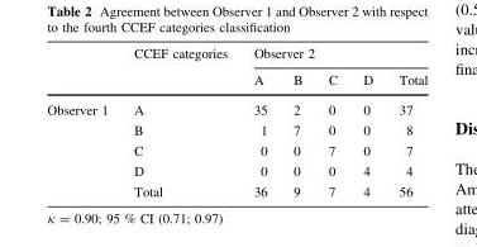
<table><thead><tr><td rowspan="2"></td><td rowspan="2">CCEF categories</td><td colspan="5">Observer 2</td></tr><tr><td>A</td><td>B</td><td>C</td><td>D</td><td>Total</td></tr></thead><tbody><tr><td rowspan="5">Observer 1</td><td>A</td><td>35</td><td>2</td><td>0</td><td>0</td><td>37</td></tr><tr><td>B</td><td>1</td><td>7</td><td>0</td><td>0</td><td>8</td></tr><tr><td>C</td><td>0</td><td>0</td><td>7</td><td>0</td><td>7</td></tr><tr><td>D</td><td>0</td><td>0</td><td>0</td><td>4</td><td>4</td></tr><tr><td>Total</td><td>36</td><td>9</td><td>7</td><td>4</td><td>56</td></tr></tbody></table>